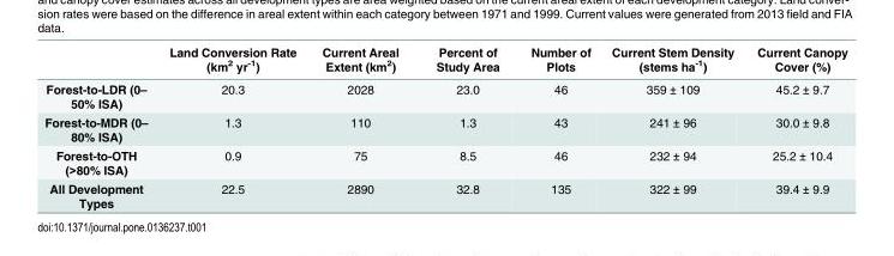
<table><thead><tr><td></td><td>Land Conversion Rate (km<sup>2</sup> yr<sup>-1</sup>)</td><td>Current Areal Extent (km<sup>2</sup>)</td><td>Percent of Study Area</td><td>Number of Plots</td><td>Current Stem Density (stems ha<sup>-1</sup>)</td><td>Current Canopy Cover (%)</td></tr></thead><tbody><tr><td>Forest-to-LDR (0– 50% ISA)</td><td>20.3</td><td>2028</td><td>23.0</td><td>46</td><td>359 ± 109</td><td>45.2 ± 9.7</td></tr><tr><td>Forest-to-MDR (0– 80% ISA)</td><td>1.3</td><td>110</td><td>1.3</td><td>43</td><td>241 ± 96</td><td>30.0 ± 9.8</td></tr><tr><td>Forest-to-OTH (&gt;80% ISA)</td><td>0.9</td><td>75</td><td>8.5</td><td>46</td><td>232 ± 94</td><td>25.2 ± 10.4</td></tr><tr><td>All Development Types</td><td>22.5</td><td>2890</td><td>32.8</td><td>135</td><td>322 ± 99</td><td>39.4 ± 9.9</td></tr></tbody></table>